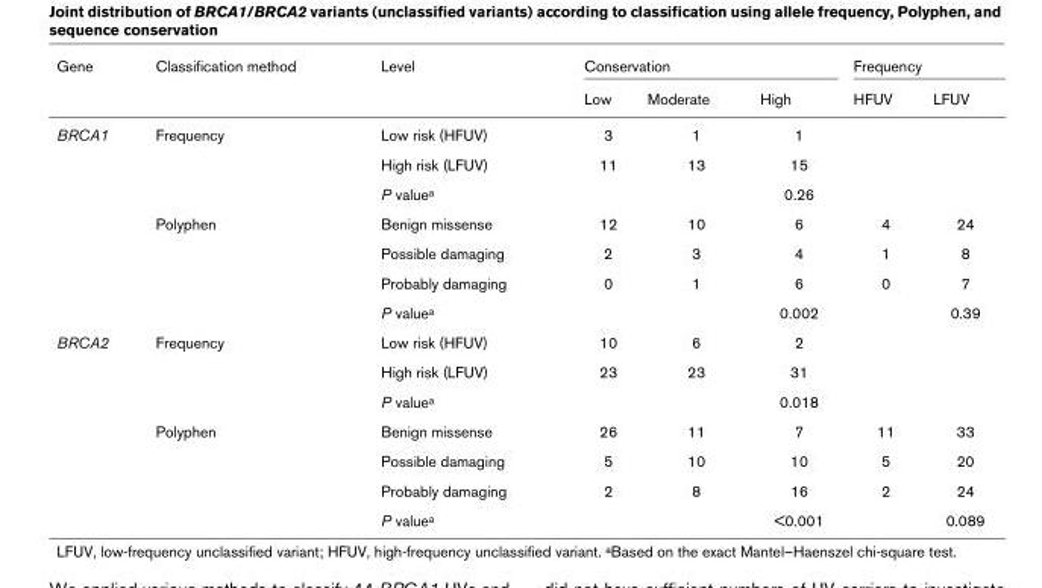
<table><thead><tr><td rowspan="2">Gene</td><td rowspan="2">Classification method</td><td rowspan="2">Level</td><td colspan="3">Conservation</td><td colspan="2">Frequency</td></tr><tr><td>Low</td><td>Moderate</td><td>High</td><td>HFUV</td><td>LFUV</td></tr></thead><tbody><tr><td rowspan="7">BRCA1</td><td>Frequency</td><td>Low risk (HFUV)</td><td>3</td><td>1</td><td>1</td><td></td><td></td></tr><tr><td></td><td>High risk (LFUV)</td><td>11</td><td>13</td><td>15</td><td></td><td></td></tr><tr><td></td><td>P value<sup>a</sup></td><td></td><td></td><td>0.26</td><td></td><td></td></tr><tr><td>Polyphen</td><td>Benign missense</td><td>12</td><td>10</td><td>6</td><td>4</td><td>24</td></tr><tr><td></td><td>Possible damaging</td><td>2</td><td>3</td><td>4</td><td>1</td><td>8</td></tr><tr><td></td><td>Probably damaging</td><td>0</td><td>1</td><td>6</td><td>0</td><td>7</td></tr><tr><td></td><td>P value<sup>a</sup></td><td></td><td></td><td>0.002</td><td></td><td>0.39</td></tr><tr><td rowspan="7">BRCA2</td><td>Frequency</td><td>Low risk (HFUV)</td><td>10</td><td>6</td><td>2</td><td></td><td></td></tr><tr><td></td><td>High risk (LFUV)</td><td>23</td><td>23</td><td>31</td><td></td><td></td></tr><tr><td></td><td>P value<sup>a</sup></td><td></td><td></td><td>0.018</td><td></td><td></td></tr><tr><td>Polyphen</td><td>Benign missense</td><td>26</td><td>11</td><td>7</td><td>11</td><td>33</td></tr><tr><td></td><td>Possible damaging</td><td>5</td><td>10</td><td>10</td><td>5</td><td>20</td></tr><tr><td></td><td>Probably damaging</td><td>2</td><td>8</td><td>16</td><td>2</td><td>24</td></tr><tr><td></td><td>P value<sup>a</sup></td><td></td><td></td><td>&lt;0.001</td><td></td><td>0.089</td></tr></tbody></table>